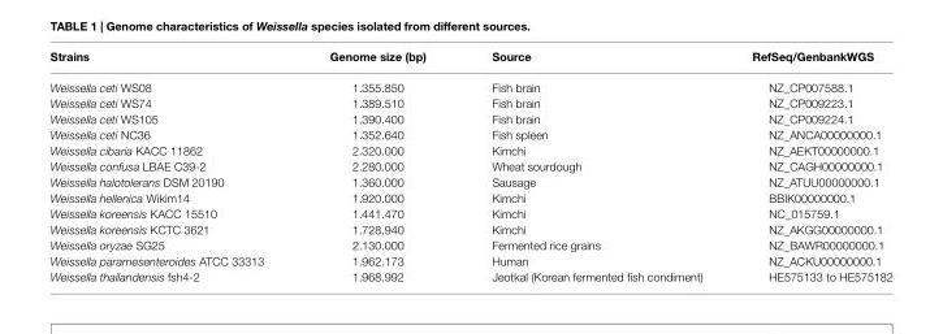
<table><thead><tr><td>Strains</td><td>Genome size (bp)</td><td>Source</td><td>RefSeq/GenbankWGS</td></tr></thead><tbody><tr><td>Weissella ceti WS08</td><td>1.355.850</td><td>Fish brain</td><td>NZ_CP007588.1</td></tr><tr><td>Weissella ceti WS74</td><td>1.389.510</td><td>Fish brain</td><td>NZ_CP009223.1</td></tr><tr><td>Weissella ceti WS105</td><td>1.390.400</td><td>Fish brain</td><td>NZ_CP009224.1</td></tr><tr><td>Weissella ceti NC36</td><td>1.352.640</td><td>Fish spleen</td><td>NZ_ANCA00000000.1</td></tr><tr><td>Weissella cibaria KACC 11862</td><td>2.320.000</td><td>Kimchi</td><td>NZ_AEKT00000000.1</td></tr><tr><td>Weissella confusa LBAE C39-2</td><td>2.280.000</td><td>Wheat sourdough</td><td>NZ_CAGH00000000.1</td></tr><tr><td>Weissella halotolerans DSM 20190</td><td>1.360.000</td><td>Sausage</td><td>NZ_ATUU00000000.1</td></tr><tr><td>Weissella hellenica Wikim14</td><td>1.920.000</td><td>Kimchi</td><td>BBIK00000000.1</td></tr><tr><td>Weissella koreensis KACC 15510</td><td>1.441.470</td><td>Kimchi</td><td>NC_015759.1</td></tr><tr><td>Weissella koreensis KCTC 3621</td><td>1.728.940</td><td>Kimchi</td><td>NZ_AKGG00000000.1</td></tr><tr><td>Weissella oryzae SG25</td><td>2.130.000</td><td>Fermented rice grains</td><td>NZ_BAWR00000000.1</td></tr><tr><td>Weissella paramesenteroides ATCC 33313</td><td>1.962.173</td><td>Human</td><td>NZ_ACKU00000000.1</td></tr><tr><td>Weissella thailandensis fsh4-2</td><td>1.968.992</td><td>Jeotkal (Korean fermented fish condiment)</td><td>HE575133 to HE575182</td></tr></tbody></table>